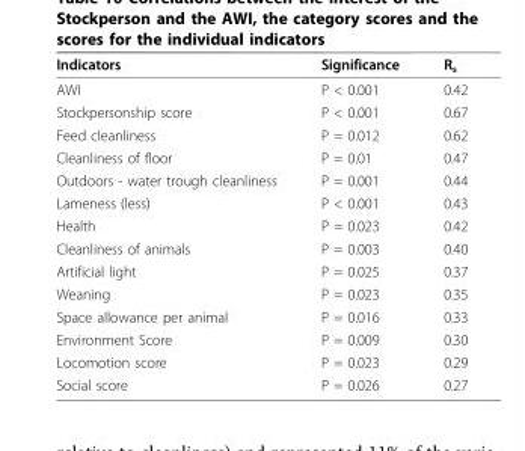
<table><thead><tr><td>Indicators</td><td>Significance</td><td>R<sub>s</sub></td></tr></thead><tbody><tr><td>AWI</td><td>P &lt; 0.001</td><td>0.42</td></tr><tr><td>Stockpersonship score</td><td>P &lt; 0.001</td><td>0.67</td></tr><tr><td>Feed cleanliness</td><td>P = 0.012</td><td>0.62</td></tr><tr><td>Cleanliness of floor</td><td>P = 0.01</td><td>0.47</td></tr><tr><td>Outdoors - water trough cleanliness</td><td>P = 0.001</td><td>0.44</td></tr><tr><td>Lameness (less)</td><td>P &lt; 0.001</td><td>0.43</td></tr><tr><td>Health</td><td>P = 0.023</td><td>0.42</td></tr><tr><td>Cleanliness of animals</td><td>P = 0.003</td><td>0.40</td></tr><tr><td>Artificial light</td><td>P = 0.025</td><td>0.37</td></tr><tr><td>Weaning</td><td>P = 0.023</td><td>0.35</td></tr><tr><td>Space allowance per animal</td><td>P = 0.016</td><td>0.33</td></tr><tr><td>Environment Score</td><td>P = 0.009</td><td>0.30</td></tr><tr><td>Locomotion score</td><td>P = 0.023</td><td>0.29</td></tr><tr><td>Social score</td><td>P = 0.026</td><td>0.27</td></tr></tbody></table>